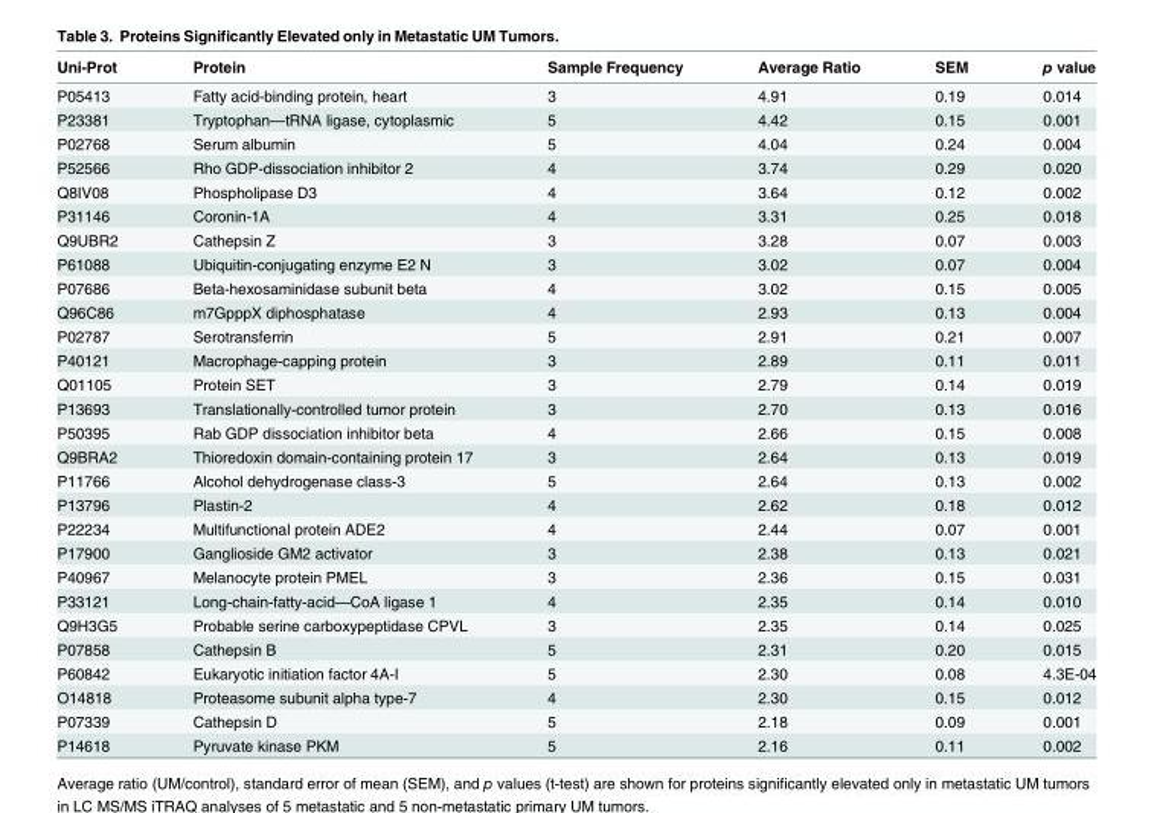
<table><thead><tr><td>Uni-Prot</td><td>Protein</td><td>Sample Frequency</td><td>Average Ratio</td><td>SEM</td><td>p value</td></tr></thead><tbody><tr><td>P05413</td><td>Fatty acid-binding protein, heart</td><td>3</td><td>4.91</td><td>0.19</td><td>0.014</td></tr><tr><td>P23381</td><td>Tryptophan—tRNA ligase, cytoplasmic</td><td>5</td><td>4.42</td><td>0.15</td><td>0.001</td></tr><tr><td>P02768</td><td>Serum albumin</td><td>5</td><td>4.04</td><td>0.24</td><td>0.004</td></tr><tr><td>P52566</td><td>Rho GDP-dissociation inhibitor 2</td><td>4</td><td>3.74</td><td>0.29</td><td>0.020</td></tr><tr><td>Q8IV08</td><td>Phospholipase D3</td><td>4</td><td>3.64</td><td>0.12</td><td>0.002</td></tr><tr><td>P31146</td><td>Coronin-1A</td><td>4</td><td>3.31</td><td>0.25</td><td>0.018</td></tr><tr><td>Q9UBR2</td><td>Cathepsin Z</td><td>3</td><td>3.28</td><td>0.07</td><td>0.003</td></tr><tr><td>P61088</td><td>Ubiquitin-conjugating enzyme E2 N</td><td>3</td><td>3.02</td><td>0.07</td><td>0.004</td></tr><tr><td>P07686</td><td>Beta-hexosaminidase subunit beta</td><td>4</td><td>3.02</td><td>0.15</td><td>0.005</td></tr><tr><td>Q96C86</td><td>m7GpppX diphosphatase</td><td>4</td><td>2.93</td><td>0.13</td><td>0.004</td></tr><tr><td>P02787</td><td>Serotransferrin</td><td>5</td><td>2.91</td><td>0.21</td><td>0.007</td></tr><tr><td>P40121</td><td>Macrophage-capping protein</td><td>3</td><td>2.89</td><td>0.11</td><td>0.011</td></tr><tr><td>Q01105</td><td>Protein SET</td><td>3</td><td>2.79</td><td>0.14</td><td>0.019</td></tr><tr><td>P13693</td><td>Translationally-controlled tumor protein</td><td>3</td><td>2.70</td><td>0.13</td><td>0.016</td></tr><tr><td>P50395</td><td>Rab GDP dissociation inhibitor beta</td><td>4</td><td>2.66</td><td>0.15</td><td>0.008</td></tr><tr><td>Q9BRA2</td><td>Thioredoxin domain-containing protein 17</td><td>3</td><td>2.64</td><td>0.13</td><td>0.019</td></tr><tr><td>P11766</td><td>Alcohol dehydrogenase class-3</td><td>5</td><td>2.64</td><td>0.13</td><td>0.002</td></tr><tr><td>P13796</td><td>Plastin-2</td><td>4</td><td>2.62</td><td>0.18</td><td>0.012</td></tr><tr><td>P22234</td><td>Multifunctional protein ADE2</td><td>4</td><td>2.44</td><td>0.07</td><td>0.001</td></tr><tr><td>P17900</td><td>Ganglioside GM2 activator</td><td>3</td><td>2.38</td><td>0.13</td><td>0.021</td></tr><tr><td>P40967</td><td>Melanocyte protein PMEL</td><td>3</td><td>2.36</td><td>0.15</td><td>0.031</td></tr><tr><td>P33121</td><td>Long-chain-fatty-acid—CoA ligase 1</td><td>4</td><td>2.35</td><td>0.14</td><td>0.010</td></tr><tr><td>Q9H3G5</td><td>Probable serine carboxypeptidase CPVL</td><td>3</td><td>2.35</td><td>0.14</td><td>0.025</td></tr><tr><td>P07858</td><td>Cathepsin B</td><td>5</td><td>2.31</td><td>0.20</td><td>0.015</td></tr><tr><td>P60842</td><td>Eukaryotic initiation factor 4A-I</td><td>5</td><td>2.30</td><td>0.08</td><td>4.3E-04</td></tr><tr><td>O14818</td><td>Proteasome subunit alpha type-7</td><td>4</td><td>2.30</td><td>0.15</td><td>0.012</td></tr><tr><td>P07339</td><td>Cathepsin D</td><td>5</td><td>2.18</td><td>0.09</td><td>0.001</td></tr><tr><td>P14618</td><td>Pyruvate kinase PKM</td><td>5</td><td>2.16</td><td>0.11</td><td>0.002</td></tr></tbody></table>